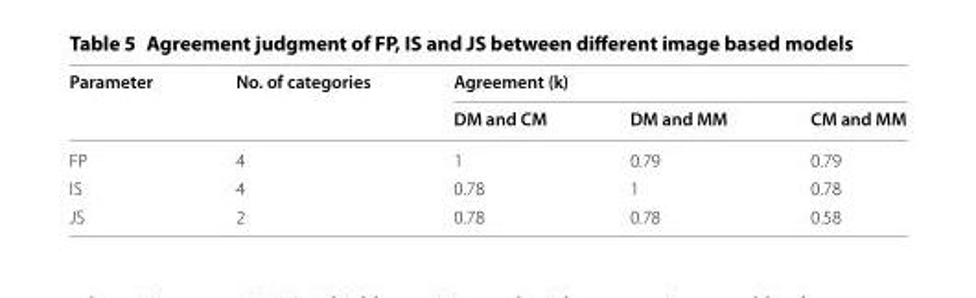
<table><thead><tr><td rowspan="2">Parameter</td><td rowspan="2">No. of categories</td><td colspan="3">Agreement (k)</td></tr><tr><td>DM and CM</td><td>DM and MM</td><td>CM and MM</td></tr></thead><tbody><tr><td>FP</td><td>4</td><td>1</td><td>0.79</td><td>0.79</td></tr><tr><td>IS</td><td>4</td><td>0.78</td><td>1</td><td>0.78</td></tr><tr><td>JS</td><td>2</td><td>0.78</td><td>0.78</td><td>0.58</td></tr></tbody></table>